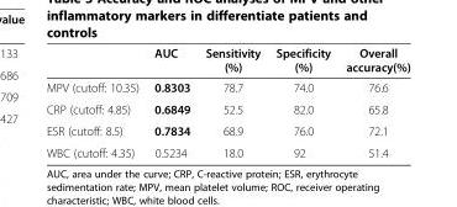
<table><thead><tr><td></td><td>AUC</td><td>Sensitivity (%)</td><td>Specificity (%)</td><td>Overall accuracy(%)</td></tr></thead><tbody><tr><td>MPV (cutoff: 10.35)</td><td>0.8303</td><td>78.7</td><td>74.0</td><td>76.6</td></tr><tr><td>CRP (cutoff: 4.85)</td><td>0.6849</td><td>52.5</td><td>82.0</td><td>65.8</td></tr><tr><td>ESR (cutoff: 8.5)</td><td>0.7834</td><td>68.9</td><td>76.0</td><td>72.1</td></tr><tr><td>WBC (cutoff: 4.35)</td><td>0.5234</td><td>18.0</td><td>92</td><td>51.4</td></tr></tbody></table>